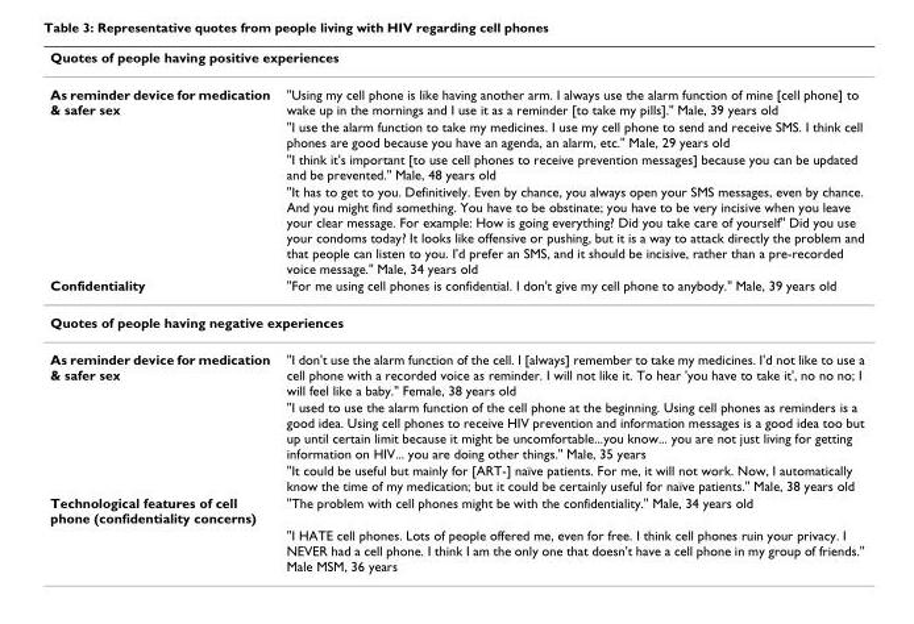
<table><thead><tr><td colspan="2">Quotes of people having positive experiences</td></tr><tr><td>As reminder device for medication &amp; safer sex</td><td>&quot;Using my cell phone is like having another arm. I always use the alarm function of mine [cell phone] to wake up in the mornings and I use it as a reminder [to take my pills].&quot; Male, 39 years old</td></tr></thead><tbody><tr><td></td><td>&quot;I use the alarm function to take my medicines. I use my cell phone to send and receive SMS. I think cell phones are good because you have an agenda, an alarm, etc.&quot; Male, 29 years old</td></tr><tr><td></td><td>&quot;I think it&#x27;s important [to use cell phones to receive prevention messages] because you can be updated and be prevented.&quot; Male, 48 years old</td></tr><tr><td></td><td>&quot;It has to get to you. Definitively. Even by chance, you always open your SMS messages, even by chance. And you might find something. You have to be obstinate; you have to be very incisive when you leave your clear message. For example: How is going everything? Did you take care of yourself&quot; Did you use your condoms today? It looks like offensive or pushing, but it is a way to attack directly the problem and that people can listen to you. I&#x27;d prefer an SMS, and it should be incisive, rather than a pre-recorded voice message.&quot; Male, 34 years old</td></tr><tr><td>Confidentiality</td><td>&quot;For me using cell phones is confidential. I don&#x27;t give my cell phone to anybody.&quot; Male, 39 years old</td></tr><tr><td colspan="2">Quotes of people having negative experiences</td></tr><tr><td rowspan="3">As reminder device for medication &amp; safer sex</td><td>&quot;I don&#x27;t use the alarm function of the cell. I [always] remember to take my medicines. I&#x27;d not like to use a cell phone with a recorded voice as reminder. I will not like it. To hear &#x27;you have to take it&#x27;, no no no; I will feel like a baby.&quot; Female, 38 years old</td></tr><tr><td>&quot;I used to use the alarm function of the cell phone at the beginning. Using cell phones as reminders is a good idea. Using cell phones to receive HIV prevention and information messages is a good idea too but up until certain limit because it might be uncomfortable...you know... you are not just living for getting information on HIV... you are doing other things.&quot; Male, 35 years</td></tr><tr><td>&quot;It could be useful but mainly for [ART-] naïve patients. For me, it will not work. Now, I automatically know the time of my medication; but it could be certainly useful for naïve patients.&quot; Male, 38 years old</td></tr><tr><td rowspan="2">Technological features of cell phone (confidentiality concerns)</td><td>&quot;The problem with cell phones might be with the confidentiality.&quot; Male, 34 years old</td></tr><tr><td>&quot;I HATE cell phones. Lots of people offered me, even for free. I think cell phones ruin your privacy. I NEVER had a cell phone. I think I am the only one that doesn&#x27;t have a cell phone in my group of friends.&quot; Male MSM, 36 years</td></tr></tbody></table>